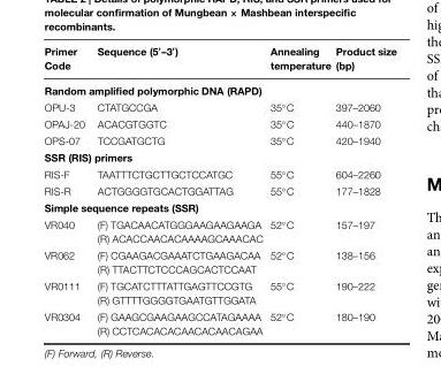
<table><thead><tr><td>Primer Code</td><td>Sequence (5′–3′)</td><td>Annealing temperature</td><td>Product size (bp)</td></tr></thead><tbody><tr><td colspan="4">Random amplified polymorphic DNA (RAPD)</td></tr><tr><td>OPU-3</td><td>CTATGCCGA</td><td>35◦C</td><td>397–2060</td></tr><tr><td>OPAJ-20</td><td>ACACGTGGTC</td><td>35◦C</td><td>440–1870</td></tr><tr><td>OPS-07</td><td>TCCGATGCTG</td><td>35◦C</td><td>420–1940</td></tr><tr><td colspan="4">SSR (RIS) primers</td></tr><tr><td>RIS-F</td><td>TAATTTCTGCTTGCTCCATGC</td><td>55◦C</td><td>604–2260</td></tr><tr><td>RIS-R</td><td>ACTGGGGTGCACTGGATTAG</td><td>55◦C</td><td>177–1828</td></tr><tr><td colspan="4">Simple sequence repeats (SSR)</td></tr><tr><td>VR040</td><td>(F) TGACAACATGGGAAGAAGAAGA (R) ACACCAACACAAAAGCAAACAC</td><td>52◦C</td><td>157–197</td></tr><tr><td>VR062</td><td>(F) CGAAGACGAAATCTGAAGACAA (R) TTACTTCTCCCAGCACTCCAAT</td><td>52◦C</td><td>138–156</td></tr><tr><td>VR0111</td><td>(F) TGCATCTTTATTGAGTTCCGTG (R) GTTTTGGGGTGAATGTTGGATA</td><td>55◦C</td><td>190–222</td></tr><tr><td>VR0304</td><td>(F) GAAGCGAAGAAGCCATAGAAAA (R) CCTCACACACAACACAACAGAA</td><td>52◦C</td><td>180–190</td></tr></tbody></table>